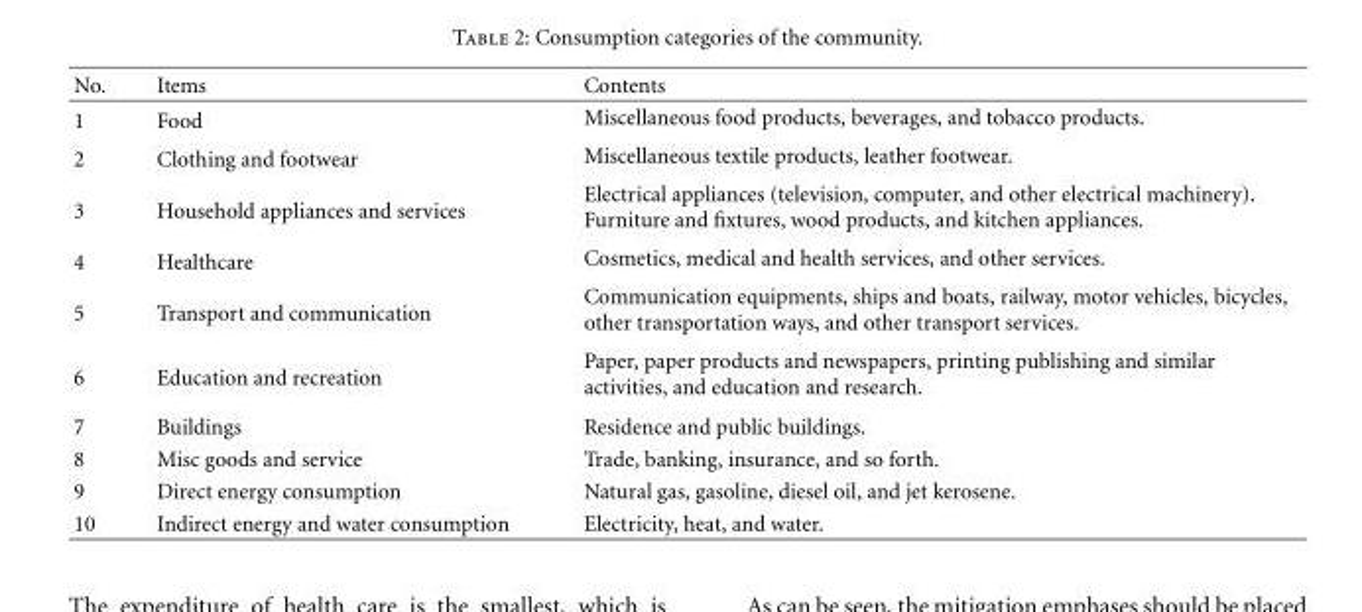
<table><thead><tr><td>No.</td><td>Items</td><td>Contents</td></tr></thead><tbody><tr><td>1</td><td>Food</td><td>Miscellaneous food products, beverages, and tobacco products.</td></tr><tr><td>2</td><td>Clothing and footwear</td><td>Miscellaneous textile products, leather footwear.</td></tr><tr><td>3</td><td>Household appliances and services</td><td>Electrical appliances (television, computer, and other electrical machinery). Furniture and fixtures, wood products, and kitchen appliances.</td></tr><tr><td>4</td><td>Healthcare</td><td>Cosmetics, medical and health services, and other services.</td></tr><tr><td>5</td><td>Transport and communication</td><td>Communication equipments, ships and boats, railway, motor vehicles, bicycles, other transportation ways, and other transport services.</td></tr><tr><td>6</td><td>Education and recreation</td><td>Paper, paper products and newspapers, printing publishing and similar activities, and education and research.</td></tr><tr><td>7</td><td>Buildings</td><td>Residence and public buildings.</td></tr><tr><td>8</td><td>Misc goods and service</td><td>Trade, banking, insurance, and so forth.</td></tr><tr><td>9</td><td>Direct energy consumption</td><td>Natural gas, gasoline, diesel oil, and jet kerosene.</td></tr><tr><td>10</td><td>Indirect energy and water consumption</td><td>Electricity, heat, and water.</td></tr></tbody></table>